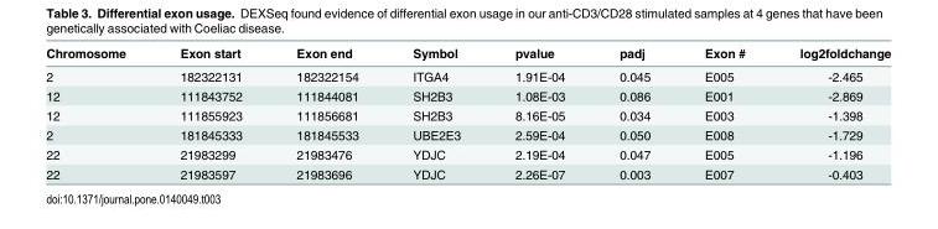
<table><thead><tr><td>Chromosome</td><td>Exon start</td><td>Exon end</td><td>Symbol</td><td>pvalue</td><td>padj</td><td>Exon #</td><td>log2foldchange</td></tr></thead><tbody><tr><td>2</td><td>182322131</td><td>182322154</td><td>ITGA4</td><td>1.91E-04</td><td>0.045</td><td>E005</td><td>-2.465</td></tr><tr><td>12</td><td>111843752</td><td>111844081</td><td>SH2B3</td><td>1.08E-03</td><td>0.086</td><td>E001</td><td>-2.869</td></tr><tr><td>12</td><td>111855923</td><td>111856681</td><td>SH2B3</td><td>8.16E-05</td><td>0.034</td><td>E003</td><td>-1.398</td></tr><tr><td>2</td><td>181845333</td><td>181845533</td><td>UBE2E3</td><td>2.59E-04</td><td>0.050</td><td>E008</td><td>-1.729</td></tr><tr><td>22</td><td>21983299</td><td>21983476</td><td>YDJC</td><td>2.19E-04</td><td>0.047</td><td>E005</td><td>-1.196</td></tr><tr><td>22</td><td>21983597</td><td>21983696</td><td>YDJC</td><td>2.26E-07</td><td>0.003</td><td>E007</td><td>-0.403</td></tr></tbody></table>